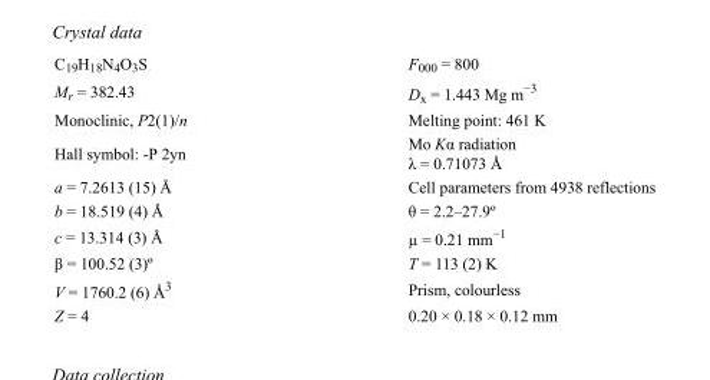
<table><tbody><tr><td>C<sub>19</sub>H<sub>18</sub>N<sub>4</sub>O<sub>3</sub>S</td><td>F000 = 800</td></tr><tr><td>M<sub>r</sub> = 382.43</td><td>D<sub>x</sub> = 1.443 Mg m<sup>−3</sup></td></tr><tr><td>Monoclinic, P2(1)/n</td><td>Melting point: 461 K</td></tr><tr><td>Hall symbol: -P 2yn</td><td>Mo Kα radiation λ = 0.71073 Å</td></tr><tr><td>a = 7.2613 (15) Å</td><td>Cell parameters from 4938 reflections</td></tr><tr><td>b = 18.519 (4) Å</td><td>θ = 2.2–27.9º</td></tr><tr><td>c = 13.314 (3) Å</td><td>µ = 0.21 mm<sup>−1</sup></td></tr><tr><td>β = 100.52 (3)º</td><td>T = 113 (2) K</td></tr><tr><td>V = 1760.2 (6) Å<sup>3</sup></td><td>Prism, colourless</td></tr><tr><td>Z = 4</td><td>0.20 × 0.18 × 0.12 mm</td></tr></tbody></table>